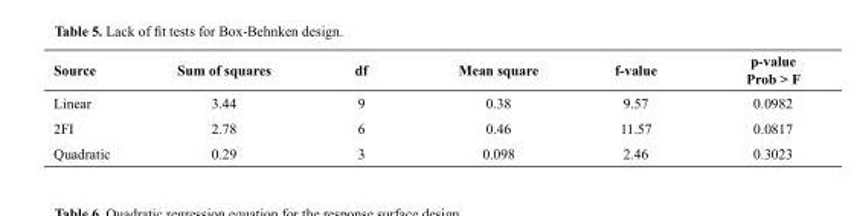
<table><thead><tr><td>Source</td><td>Sum of squares</td><td>df</td><td>Mean square</td><td>f-value</td><td>p-value Prob &gt; F</td></tr></thead><tbody><tr><td>Linear</td><td>3.44</td><td>9</td><td>0.38</td><td>9.57</td><td>0.0982</td></tr><tr><td>2FI</td><td>2.78</td><td>6</td><td>0.46</td><td>11.57</td><td>0.0817</td></tr><tr><td>Quadratic</td><td>0.29</td><td>3</td><td>0.098</td><td>2.46</td><td>0.3023</td></tr></tbody></table>